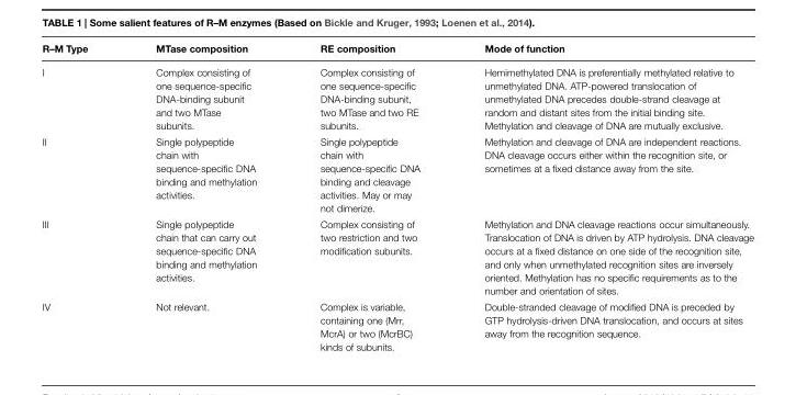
<table><thead><tr><td>R–M Type</td><td>MTase composition</td><td>RE composition</td><td>Mode of function</td></tr></thead><tbody><tr><td>I</td><td>Complex consisting of one sequence-specific DNA-binding subunit and two MTase subunits.</td><td>Complex consisting of one sequence-specific DNA-binding subunit, two MTase and two RE subunits.</td><td>Hemimethylated DNA is preferentially methylated relative to unmethylated DNA. ATP-powered translocation of unmethylated DNA precedes double-strand cleavage at random and distant sites from the initial binding site. Methylation and cleavage of DNA are mutually exclusive.</td></tr><tr><td>II</td><td>Single polypeptide chain with sequence-specific DNA binding and methylation activities.</td><td>Single polypeptide chain with sequence-specific DNA binding and cleavage activities. May or may not dimerize.</td><td>Methylation and cleavage of DNA are independent reactions. DNA cleavage occurs either within the recognition site, or sometimes at a fixed distance away from the site.</td></tr><tr><td>III</td><td>Single polypeptide chain that can carry out sequence-specific DNA binding and methylation activities.</td><td>Complex consisting of two restriction and two modification subunits.</td><td>Methylation and DNA cleavage reactions occur simultaneously. Translocation of DNA is driven by ATP hydrolysis. DNA cleavage occurs at a fixed distance on one side of the recognition site, and only when unmethylated recognition sites are inversely oriented. Methylation has no specific requirements as to the number and orientation of sites.</td></tr><tr><td>IV</td><td>Not relevant.</td><td>Complex is variable, containing one (Mrr, McrA) or two (McrBC) kinds of subunits.</td><td>Double-stranded cleavage of modified DNA is preceded by GTP hydrolysis-driven DNA translocation, and occurs at sites away from the recognition sequence.</td></tr></tbody></table>